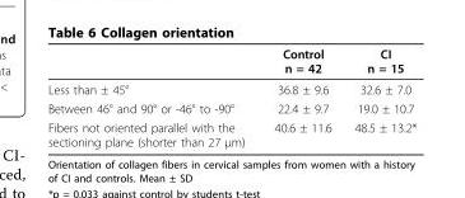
<table><thead><tr><td></td><td>Control n = 42</td><td>CI n = 15</td></tr></thead><tbody><tr><td>Less than ± 45°</td><td>36.8 ± 9.6</td><td>32.6 ± 7.0</td></tr><tr><td>Between 46° and 90° or -46° to -90°</td><td>22.4 ± 9.7</td><td>19.0 ± 10.7</td></tr><tr><td>Fibers not oriented parallel with the sectioning plane (shorter than 27 μm)</td><td>40.6 ± 11.6</td><td>48.5 ± 13.2*</td></tr></tbody></table>